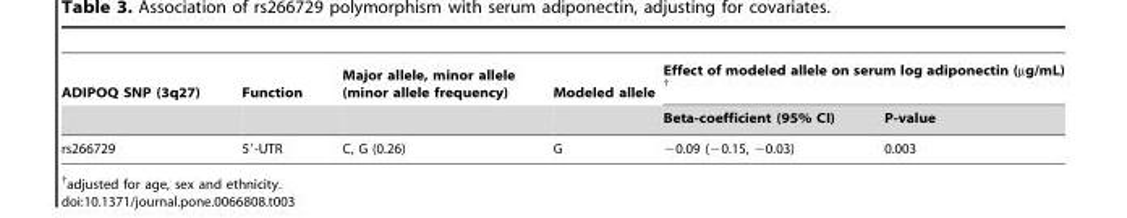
<table><thead><tr><td rowspan="2">ADIPOQ SNP (3q27)</td><td rowspan="2">Function</td><td rowspan="2">Major allele, minor allele (minor allele frequency)</td><td rowspan="2">Modeled allele</td><td colspan="2">Effect of modeled allele on serum log adiponectin (µg/mL) †</td></tr><tr><td>Beta-coefficient (95% CI)</td><td>P-value</td></tr></thead><tbody><tr><td>rs266729</td><td>5′-UTR</td><td>C, G (0.26)</td><td>G</td><td>−0.09 (−0.15, −0.03)</td><td>0.003</td></tr></tbody></table>